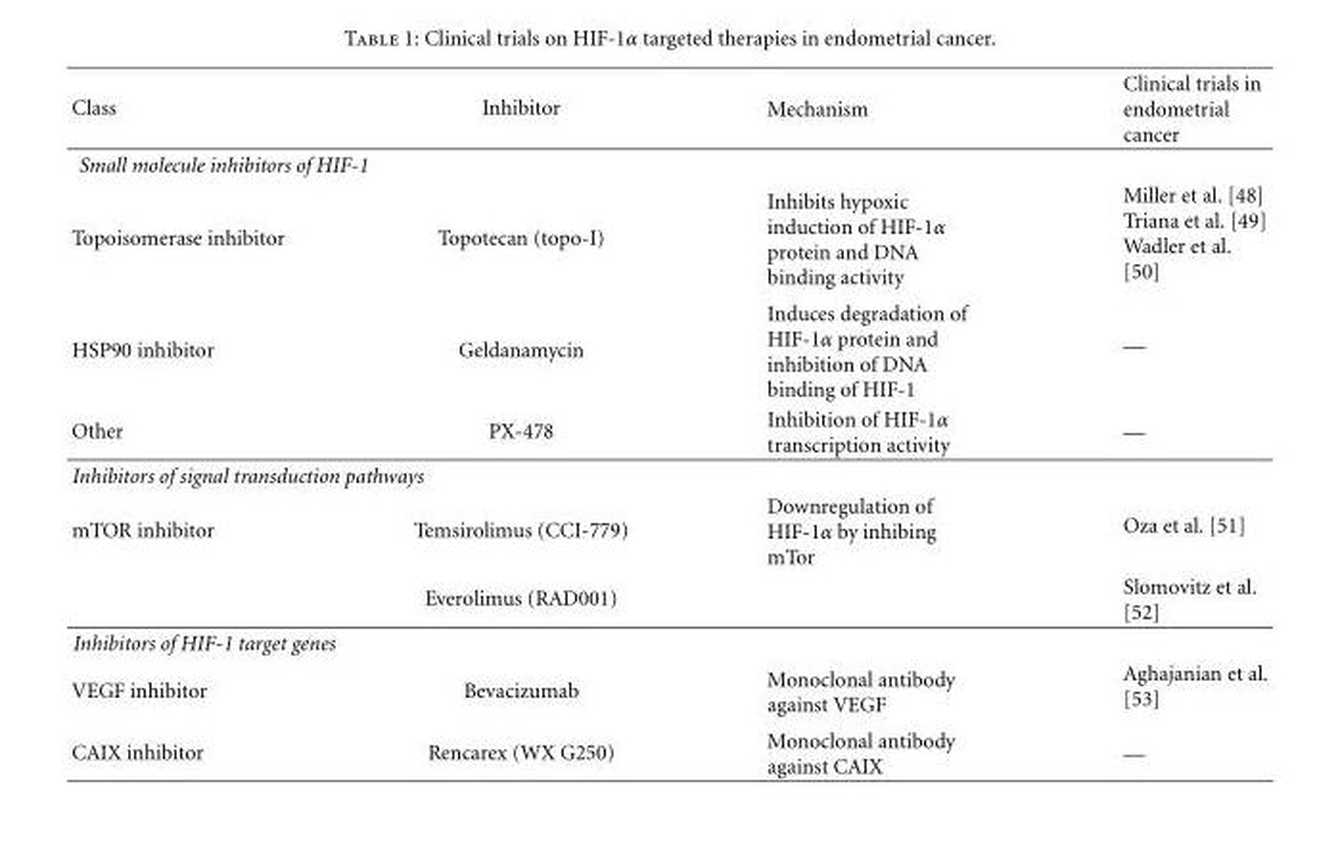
<table><thead><tr><td>Class</td><td>Inhibitor</td><td>Mechanism</td><td>Clinical trials in endometrial cancer</td></tr></thead><tbody><tr><td colspan="4">Small molecule inhibitors of HIF-1</td></tr><tr><td>Topoisomerase inhibitor</td><td>Topotecan (topo-I)</td><td>Inhibits hypoxic induction of HIF-1α protein and DNA binding activity</td><td>Miller et al. [48] Triana et al. [49] Wadler et al. [50]</td></tr><tr><td>HSP90 inhibitor</td><td>Geldanamycin</td><td>Induces degradation of HIF-1α protein and inhibition of DNA binding of HIF-1</td><td>—</td></tr><tr><td>Other</td><td>PX-478</td><td>Inhibition of HIF-1α transcription activity</td><td>—</td></tr><tr><td colspan="4">Inhibitors of signal transduction pathways</td></tr><tr><td rowspan="2">mTOR inhibitor</td><td>Temsirolimus (CCI-779)</td><td>Downregulation of HIF-1α by inhibing mTor</td><td>Oza et al. [51]</td></tr><tr><td>Everolimus (RAD001)</td><td></td><td>Slomovitz et al. [52]</td></tr><tr><td colspan="4">Inhibitors of HIF-1 target genes</td></tr><tr><td>VEGF inhibitor</td><td>Bevacizumab</td><td>Monoclonal antibody against VEGF</td><td>Aghajanian et al. [53]</td></tr><tr><td>CAIX inhibitor</td><td>Rencarex (WX G250)</td><td>Monoclonal antibody against CAIX</td><td>—</td></tr></tbody></table>